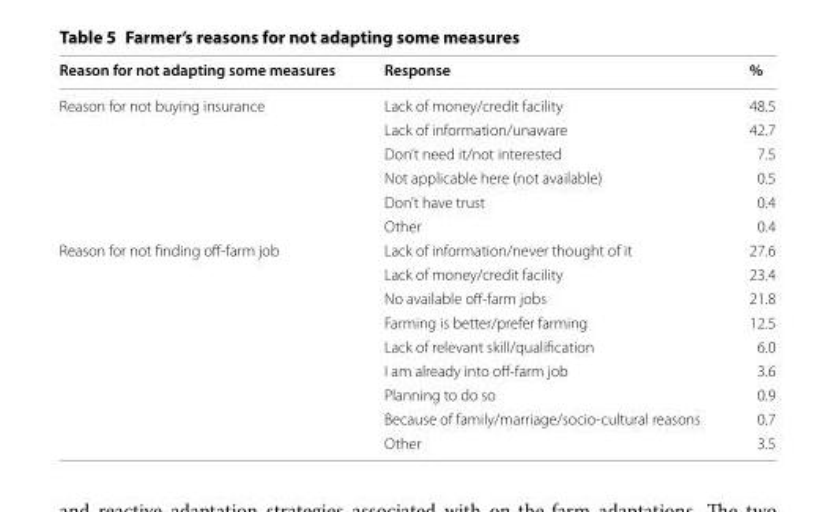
<table><thead><tr><td>Reason for not adapting some measures</td><td>Response</td><td>%</td></tr></thead><tbody><tr><td rowspan="6">Reason for not buying insurance</td><td>Lack of money/credit facility</td><td>48.5</td></tr><tr><td>Lack of information/unaware</td><td>42.7</td></tr><tr><td>Don’t need it/not interested</td><td>7.5</td></tr><tr><td>Not applicable here (not available)</td><td>0.5</td></tr><tr><td>Don’t have trust</td><td>0.4</td></tr><tr><td>Other</td><td>0.4</td></tr><tr><td rowspan="9">Reason for not finding off-farm job</td><td>Lack of information/never thought of it</td><td>27.6</td></tr><tr><td>Lack of money/credit facility</td><td>23.4</td></tr><tr><td>No available off-farm jobs</td><td>21.8</td></tr><tr><td>Farming is better/prefer farming</td><td>12.5</td></tr><tr><td>Lack of relevant skill/qualification</td><td>6.0</td></tr><tr><td>I am already into off-farm job</td><td>3.6</td></tr><tr><td>Planning to do so</td><td>0.9</td></tr><tr><td>Because of family/marriage/socio-cultural reasons</td><td>0.7</td></tr><tr><td>Other</td><td>3.5</td></tr></tbody></table>